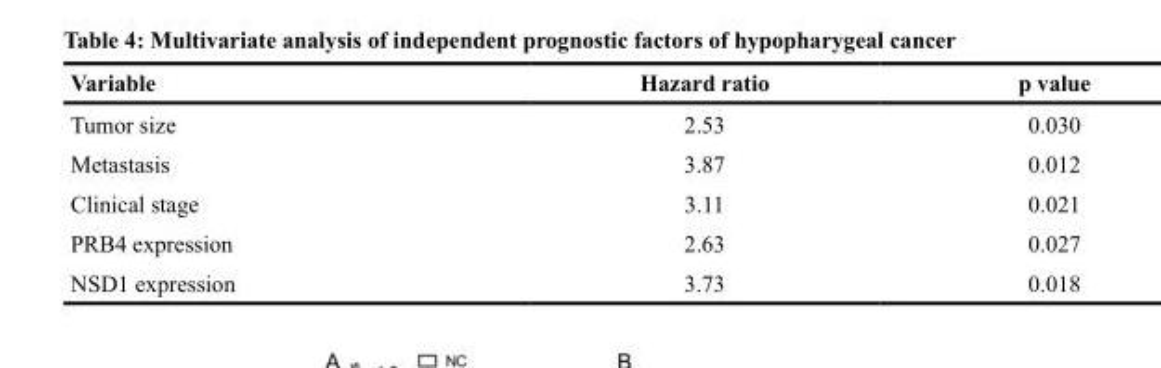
<table><thead><tr><td>Variable</td><td>Hazard ratio</td><td>p value</td></tr></thead><tbody><tr><td>Tumor size</td><td>2.53</td><td>0.030</td></tr><tr><td>Metastasis</td><td>3.87</td><td>0.012</td></tr><tr><td>Clinical stage</td><td>3.11</td><td>0.021</td></tr><tr><td>PRB4 expression</td><td>2.63</td><td>0.027</td></tr><tr><td>NSD1 expression</td><td>3.73</td><td>0.018</td></tr></tbody></table>